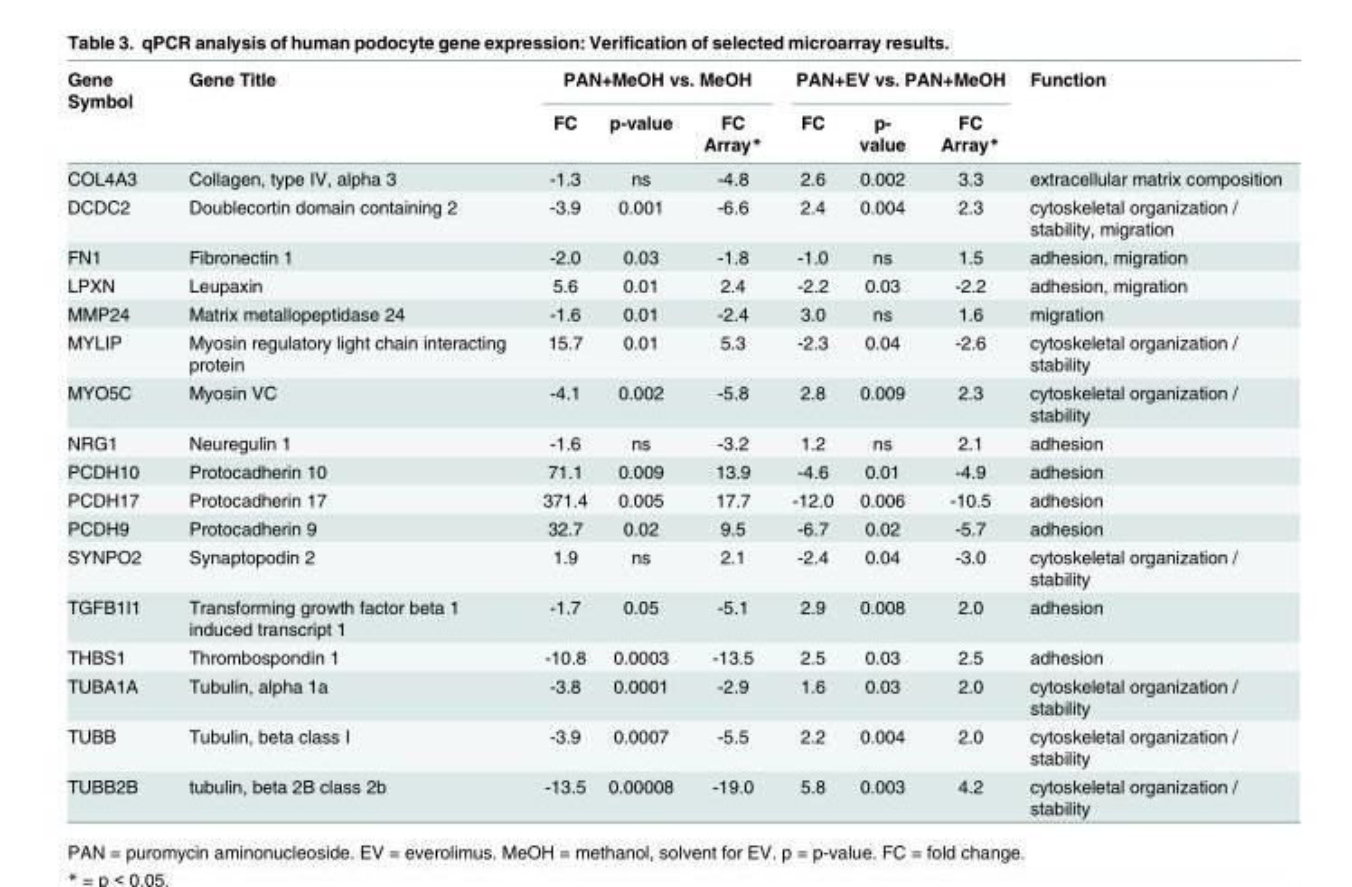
<table><thead><tr><td rowspan="2">Gene Symbol</td><td rowspan="2">Gene Title</td><td colspan="3">PAN+MeOH vs. MeOH</td><td colspan="3">PAN+EV vs. PAN+MeOH</td><td rowspan="2">Function</td></tr><tr><td>FC</td><td>p-value</td><td>FC Array*</td><td>FC</td><td>p- value</td><td>FC Array*</td></tr></thead><tbody><tr><td>COL4A3</td><td>Collagen, type IV, alpha 3</td><td>-1.3</td><td>ns</td><td>-4.8</td><td>2.6</td><td>0.002</td><td>3.3</td><td>extracellular matrix composition</td></tr><tr><td>DCDC2</td><td>Doublecortin domain containing 2</td><td>-3.9</td><td>0.001</td><td>-6.6</td><td>2.4</td><td>0.004</td><td>2.3</td><td>cytoskeletal organization / stability, migration</td></tr><tr><td>FN1</td><td>Fibronectin 1</td><td>-2.0</td><td>0.03</td><td>-1.8</td><td>-1.0</td><td>ns</td><td>1.5</td><td>adhesion, migration</td></tr><tr><td>LPXN</td><td>Leupaxin</td><td>5.6</td><td>0.01</td><td>2.4</td><td>-2.2</td><td>0.03</td><td>-2.2</td><td>adhesion, migration</td></tr><tr><td>MMP24</td><td>Matrix metallopeptidase 24</td><td>-1.6</td><td>0.01</td><td>-2.4</td><td>3.0</td><td>ns</td><td>1.6</td><td>migration</td></tr><tr><td>MYLIP</td><td>Myosin regulatory light chain interacting protein</td><td>15.7</td><td>0.01</td><td>5.3</td><td>-2.3</td><td>0.04</td><td>-2.6</td><td>cytoskeletal organization / stability</td></tr><tr><td>MYO5C</td><td>Myosin VC</td><td>-4.1</td><td>0.002</td><td>-5.8</td><td>2.8</td><td>0.009</td><td>2.3</td><td>cytoskeletal organization / stability</td></tr><tr><td>NRG1</td><td>Neuregulin 1</td><td>-1.6</td><td>ns</td><td>-3.2</td><td>1.2</td><td>ns</td><td>2.1</td><td>adhesion</td></tr><tr><td>PCDH10</td><td>Protocadherin 10</td><td>71.1</td><td>0.009</td><td>13.9</td><td>-4.6</td><td>0.01</td><td>-4.9</td><td>adhesion</td></tr><tr><td>PCDH17</td><td>Protocadherin 17</td><td>371.4</td><td>0.005</td><td>17.7</td><td>-12.0</td><td>0.006</td><td>-10.5</td><td>adhesion</td></tr><tr><td>PCDH9</td><td>Protocadherin 9</td><td>32.7</td><td>0.02</td><td>9.5</td><td>-6.7</td><td>0.02</td><td>-5.7</td><td>adhesion</td></tr><tr><td>SYNPO2</td><td>Synaptopodin 2</td><td>1.9</td><td>ns</td><td>2.1</td><td>-2.4</td><td>0.04</td><td>-3.0</td><td>cytoskeletal organization / stability</td></tr><tr><td>TGFB1I1</td><td>Transforming growth factor beta 1 induced transcript 1</td><td>-1.7</td><td>0.05</td><td>-5.1</td><td>2.9</td><td>0.008</td><td>2.0</td><td>adhesion</td></tr><tr><td>THBS1</td><td>Thrombospondin 1</td><td>-10.8</td><td>0.0003</td><td>-13.5</td><td>2.5</td><td>0.03</td><td>2.5</td><td>adhesion</td></tr><tr><td>TUBA1A</td><td>Tubulin, alpha 1a</td><td>-3.8</td><td>0.0001</td><td>-2.9</td><td>1.6</td><td>0.03</td><td>2.0</td><td>cytoskeletal organization / stability</td></tr><tr><td>TUBB</td><td>Tubulin, beta class I</td><td>-3.9</td><td>0.0007</td><td>-5.5</td><td>2.2</td><td>0.004</td><td>2.0</td><td>cytoskeletal organization / stability</td></tr><tr><td>TUBB2B</td><td>tubulin, beta 2B class 2b</td><td>-13.5</td><td>0.00008</td><td>-19.0</td><td>5.8</td><td>0.003</td><td>4.2</td><td>cytoskeletal organization / stability</td></tr></tbody></table>